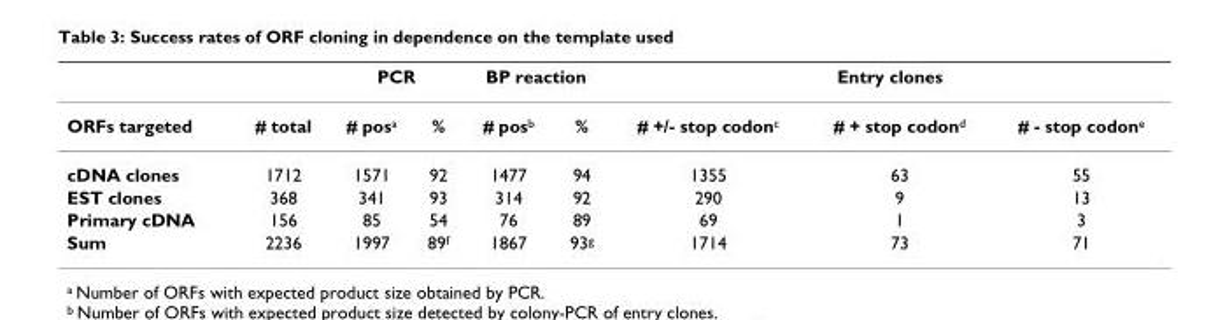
<table><thead><tr><td rowspan="2">ORFs targeted</td><td rowspan="2"># total</td><td colspan="2">PCR</td><td colspan="2">BP reaction</td><td colspan="3">Entry clones</td></tr><tr><td># pos<sup>a</sup></td><td>%</td><td># pos<sup>b</sup></td><td>%</td><td># +/- stop codon<sup>c</sup></td><td># + stop codon<sup>d</sup></td><td># - stop codon<sup>e</sup></td></tr></thead><tbody><tr><td>cDNA clones</td><td>1712</td><td>1571</td><td>92</td><td>1477</td><td>94</td><td>1355</td><td>63</td><td>55</td></tr><tr><td>EST clones</td><td>368</td><td>341</td><td>93</td><td>314</td><td>92</td><td>290</td><td>9</td><td>13</td></tr><tr><td>Primary cDNA</td><td>156</td><td>85</td><td>54</td><td>76</td><td>89</td><td>69</td><td>1</td><td>3</td></tr><tr><td>Sum</td><td>2236</td><td>1997</td><td>89<sup>f</sup></td><td>1867</td><td>93<sup>g</sup></td><td>1714</td><td>73</td><td>71</td></tr></tbody></table>